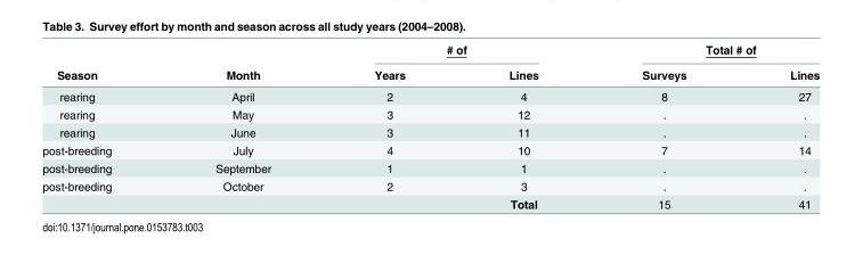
<table><thead><tr><td rowspan="2">Season</td><td rowspan="2">Month</td><td colspan="2"># of</td><td colspan="2">Total # of</td></tr><tr><td>Years</td><td>Lines</td><td>Surveys</td><td>Lines</td></tr></thead><tbody><tr><td>rearing</td><td>April</td><td>2</td><td>4</td><td>8</td><td>27</td></tr><tr><td>rearing</td><td>May</td><td>3</td><td>12</td><td>.</td><td>.</td></tr><tr><td>rearing</td><td>June</td><td>3</td><td>11</td><td>.</td><td>.</td></tr><tr><td>post-breeding</td><td>July</td><td>4</td><td>10</td><td>7</td><td>14</td></tr><tr><td>post-breeding</td><td>September</td><td>1</td><td>1</td><td>.</td><td>.</td></tr><tr><td rowspan="2">post-breeding</td><td>October</td><td>2</td><td>3</td><td>.</td><td>.</td></tr><tr><td></td><td></td><td>Total</td><td>15</td><td>41</td></tr></tbody></table>